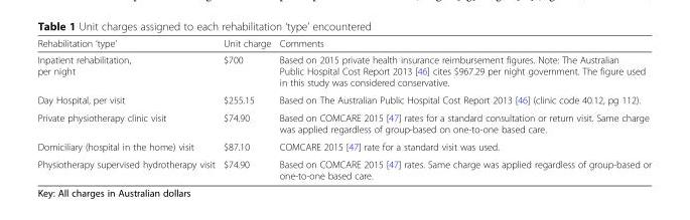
<table><thead><tr><td>Rehabilitation ‘type’</td><td>Unit charge</td><td>Comments</td></tr></thead><tbody><tr><td>Inpatient rehabilitation, per night</td><td>$700</td><td>Based on 2015 private health insurance reimbursement figures. Note: The Australian Public Hospital Cost Report 2013 [46] cites $967.29 per night government. The figure used in this study was considered conservative.</td></tr><tr><td>Day Hospital, per visit</td><td>$255.15</td><td>Based on The Australian Public Hospital Cost Report 2013 [46] (clinic code 40.12, pg 112).</td></tr><tr><td>Private physiotherapy clinic visit</td><td>$74.90</td><td>Based on COMCARE 2015 [47] rates for a standard consultation or return visit. Same charge was applied regardless of group-based on one-to-one based care.</td></tr><tr><td>Domiciliary (hospital in the home) visit</td><td>$87.10</td><td>COMCARE 2015 [47] rate for a standard visit was used.</td></tr><tr><td>Physiotherapy supervised hydrotherapy visit</td><td>$74.90</td><td>Based on COMCARE 2015 [47] rates. Same charge was applied regardless of group-based or one-to-one based care.</td></tr></tbody></table>